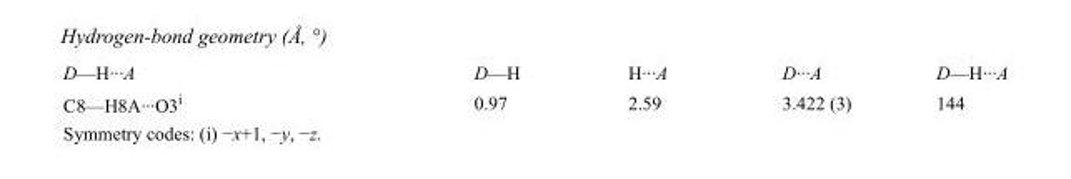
<table><tbody><tr><td>D—H···A</td><td>D—H</td><td>H···A</td><td>D···A</td><td>D—H···A</td></tr><tr><td>C8—H8A···O3<sup>i</sup></td><td>0.97</td><td>2.59</td><td>3.422 (3)</td><td>144</td></tr></tbody></table>